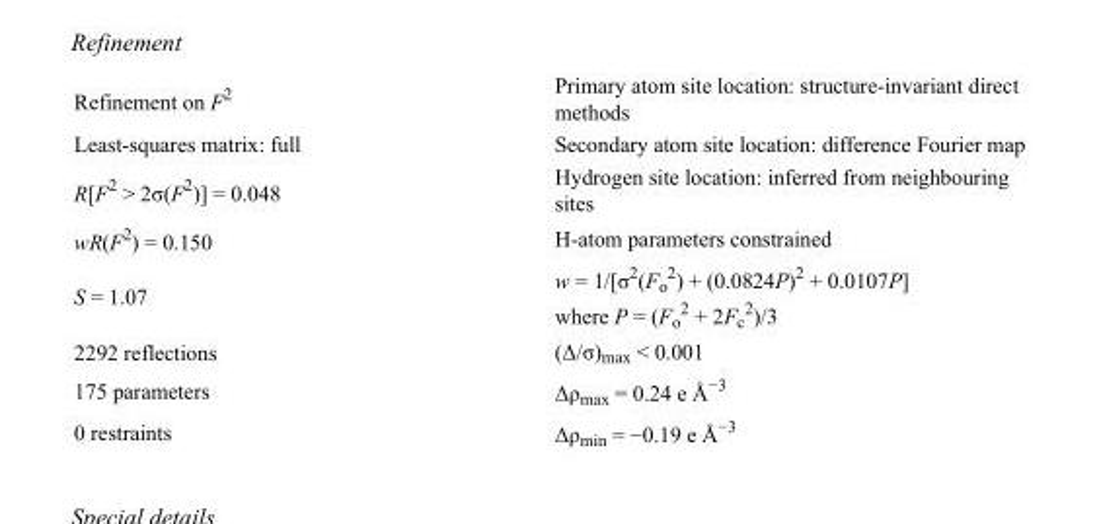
<table><tbody><tr><td>Refinement on F<sup>2</sup></td><td>Primary atom site location: structure-invariant direct methods</td></tr><tr><td>Least-squares matrix: full</td><td>Secondary atom site location: difference Fourier map</td></tr><tr><td>R[F<sup>2</sup> &gt; 2σ(F<sup>2</sup>)] = 0.048</td><td>Hydrogen site location: inferred from neighbouring sites</td></tr><tr><td>wR(F<sup>2</sup>) = 0.150</td><td>H-atom parameters constrained</td></tr><tr><td>S = 1.07</td><td>w = 1/[σ<sup>2</sup>(F<sub>o</sub> <sup>2</sup>) + (0.0824P)<sup>2</sup> + 0.0107P] where P = (F<sub>o</sub> <sup>2</sup> + 2F<sub>c</sub> <sup>2</sup>)/3</td></tr><tr><td>2292 reflections</td><td>(Δ/σ)<sub>max</sub> &lt; 0.001</td></tr><tr><td>175 parameters</td><td>Δρ<sub>max</sub> = 0.24 e Å<sup>−3</sup></td></tr><tr><td>0 restraints</td><td>Δρ<sub>min</sub> = −0.19 e Å<sup>−3</sup></td></tr></tbody></table>